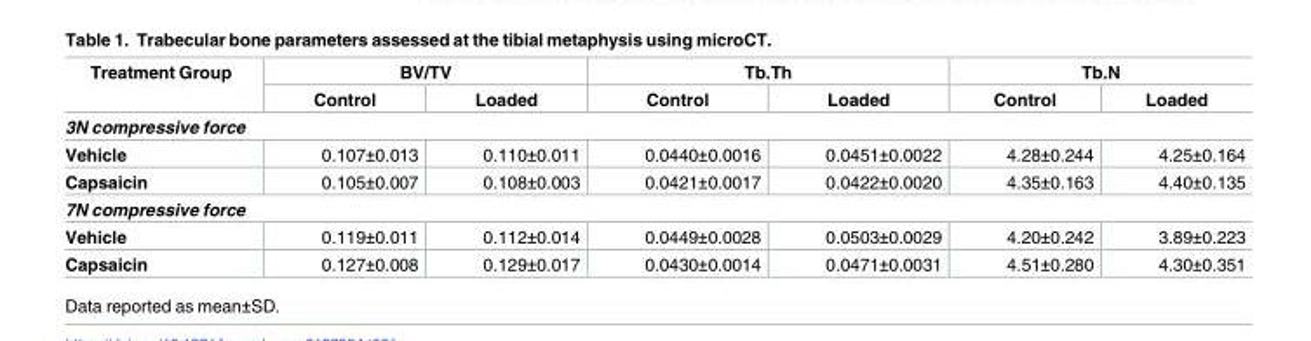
<table><thead><tr><td rowspan="2">Treatment Group</td><td colspan="2">BV/TV</td><td colspan="2">Tb.Th</td><td colspan="2">Tb.N</td></tr><tr><td>Control</td><td>Loaded</td><td>Control</td><td>Loaded</td><td>Control</td><td>Loaded</td></tr></thead><tbody><tr><td colspan="7">3N compressive force</td></tr><tr><td>Vehicle</td><td>0.107±0.013</td><td>0.110±0.011</td><td>0.0440±0.0016</td><td>0.0451±0.0022</td><td>4.28±0.244</td><td>4.25±0.164</td></tr><tr><td>Capsaicin</td><td>0.105±0.007</td><td>0.108±0.003</td><td>0.0421±0.0017</td><td>0.0422±0.0020</td><td>4.35±0.163</td><td>4.40±0.135</td></tr><tr><td colspan="7">7N compressive force</td></tr><tr><td>Vehicle</td><td>0.119±0.011</td><td>0.112±0.014</td><td>0.0449±0.0028</td><td>0.0503±0.0029</td><td>4.20±0.242</td><td>3.89±0.223</td></tr><tr><td>Capsaicin</td><td>0.127±0.008</td><td>0.129±0.017</td><td>0.0430±0.0014</td><td>0.0471±0.0031</td><td>4.51±0.280</td><td>4.30±0.351</td></tr></tbody></table>